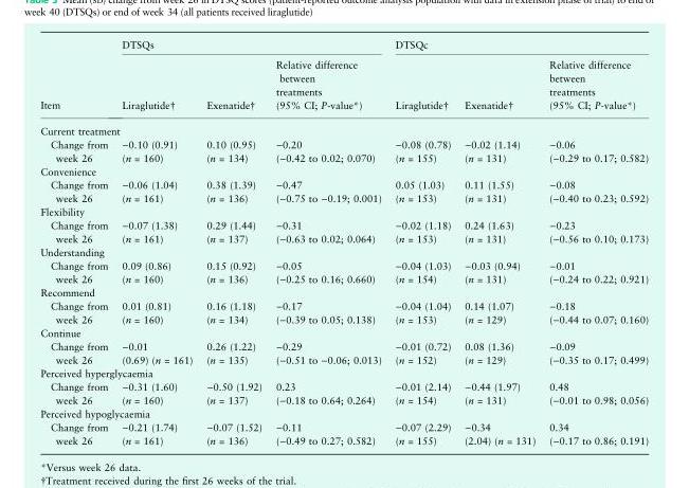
<table><thead><tr><td rowspan="2">Item</td><td colspan="3">DTSQs</td><td colspan="3">DTSQc</td></tr><tr><td>Liraglutide†</td><td>Exenatide†</td><td>Relative difference between treatments (95% CI; P-value*)</td><td>Liraglutide†</td><td>Exenatide†</td><td>Relative difference between treatments (95% CI; P-value*)</td></tr></thead><tbody><tr><td colspan="7">Current treatment</td></tr><tr><td>Change from week 26</td><td>−0.10 (0.91) (n = 160)</td><td>0.10 (0.95) (n = 134)</td><td>−0.20 (−0.42 to 0.02; 0.070)</td><td>−0.08 (0.78) (n = 155)</td><td>−0.02 (1.14) (n = 131)</td><td>−0.06 (−0.29 to 0.17; 0.582)</td></tr><tr><td colspan="7">Convenience</td></tr><tr><td>Change from week 26</td><td>−0.06 (1.04) (n = 161)</td><td>0.38 (1.39) (n = 136)</td><td>−0.47 (−0.75 to −0.19; 0.001)</td><td>0.05 (1.03) (n = 153)</td><td>0.11 (1.55) (n = 131)</td><td>−0.08 (−0.40 to 0.23; 0.592)</td></tr><tr><td colspan="7">Flexibility</td></tr><tr><td>Change from week 26</td><td>−0.07 (1.38) (n = 161)</td><td>0.29 (1.44) (n = 137)</td><td>−0.31 (−0.63 to 0.02; 0.064)</td><td>−0.02 (1.18) (n = 153)</td><td>0.24 (1.63) (n = 131)</td><td>−0.23 (−0.56 to 0.10; 0.173)</td></tr><tr><td colspan="7">Understanding</td></tr><tr><td>Change from week 26</td><td>0.09 (0.86) (n = 160)</td><td>0.15 (0.92) (n = 136)</td><td>−0.05 (−0.25 to 0.16; 0.660)</td><td>−0.04 (1.03) (n = 154)</td><td>−0.03 (0.94) (n = 131)</td><td>−0.01 (−0.24 to 0.22; 0.921)</td></tr><tr><td colspan="7">Recommend</td></tr><tr><td>Change from week 26</td><td>0.01 (0.81) (n = 160)</td><td>0.16 (1.18) (n = 134)</td><td>−0.17 (−0.39 to 0.05; 0.138)</td><td>−0.04 (1.04) (n = 153)</td><td>0.14 (1.07) (n = 129)</td><td>−0.18 (−0.44 to 0.07; 0.160)</td></tr><tr><td colspan="7">Continue</td></tr><tr><td>Change from week 26</td><td>−0.01 (0.69) (n = 161)</td><td>0.26 (1.22) (n = 135)</td><td>−0.29 (−0.51 to −0.06; 0.013)</td><td>−0.01 (0.72) (n = 152)</td><td>0.08 (1.36) (n = 129)</td><td>−0.09 (−0.35 to 0.17; 0.499)</td></tr><tr><td colspan="7">Perceived hyperglycaemia</td></tr><tr><td>Change from week 26</td><td>−0.31 (1.60) (n = 160)</td><td>−0.50 (1.92) (n = 137)</td><td>0.23 (−0.18 to 0.64; 0.264)</td><td>−0.01 (2.14) (n = 154)</td><td>−0.44 (1.97) (n = 131)</td><td>0.48 (−0.01 to 0.98; 0.056)</td></tr><tr><td colspan="7">Perceived hypoglycaemia</td></tr><tr><td>Change from week 26</td><td>−0.21 (1.74) (n = 161)</td><td>−0.07 (1.52) (n = 136)</td><td>−0.11 (−0.49 to 0.27; 0.582)</td><td>−0.07 (2.29) (n = 155)</td><td>−0.34 (2.04) (n = 131)</td><td>0.34 (−0.17 to 0.86; 0.191)</td></tr></tbody></table>